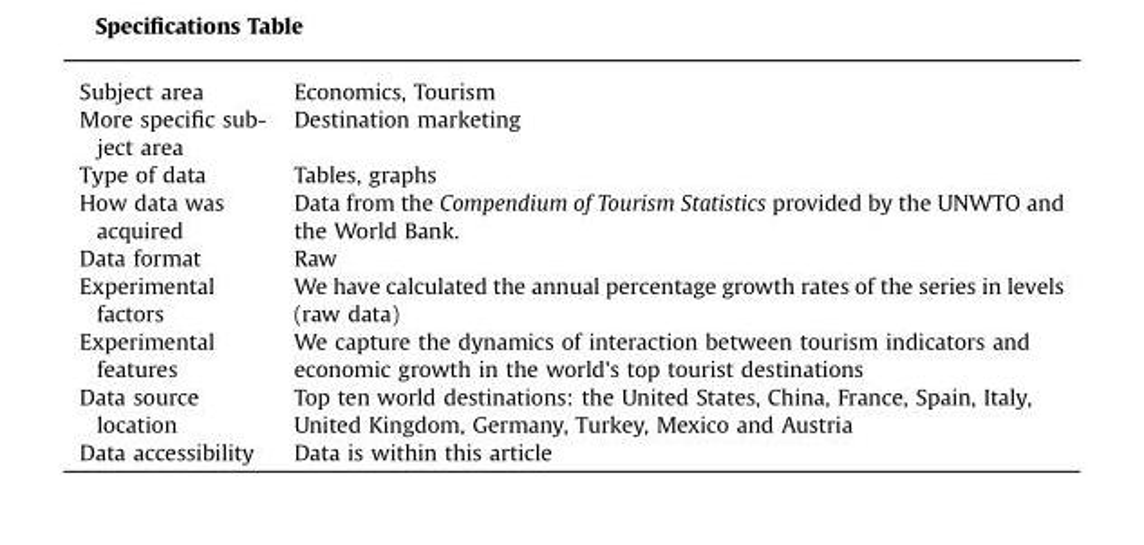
<table><tbody><tr><td>Subject area</td><td>Economics, Tourism</td></tr><tr><td>More specific sub- ject area</td><td>Destination marketing</td></tr><tr><td>Type of data</td><td>Tables, graphs</td></tr><tr><td>How data was acquired</td><td>Data from the Compendium of Tourism Statistics provided by the UNWTO and the World Bank.</td></tr><tr><td>Data format</td><td>Raw</td></tr><tr><td>Experimental factors</td><td>We have calculated the annual percentage growth rates of the series in levels (raw data)</td></tr><tr><td>Experimental features</td><td>We capture the dynamics of interaction between tourism indicators and economic growth in the world&#x27;s top tourist destinations</td></tr><tr><td>Data source location</td><td>Top ten world destinations: the United States, China, France, Spain, Italy, United Kingdom, Germany, Turkey, Mexico and Austria</td></tr><tr><td>Data accessibility</td><td>Data is within this article</td></tr></tbody></table>